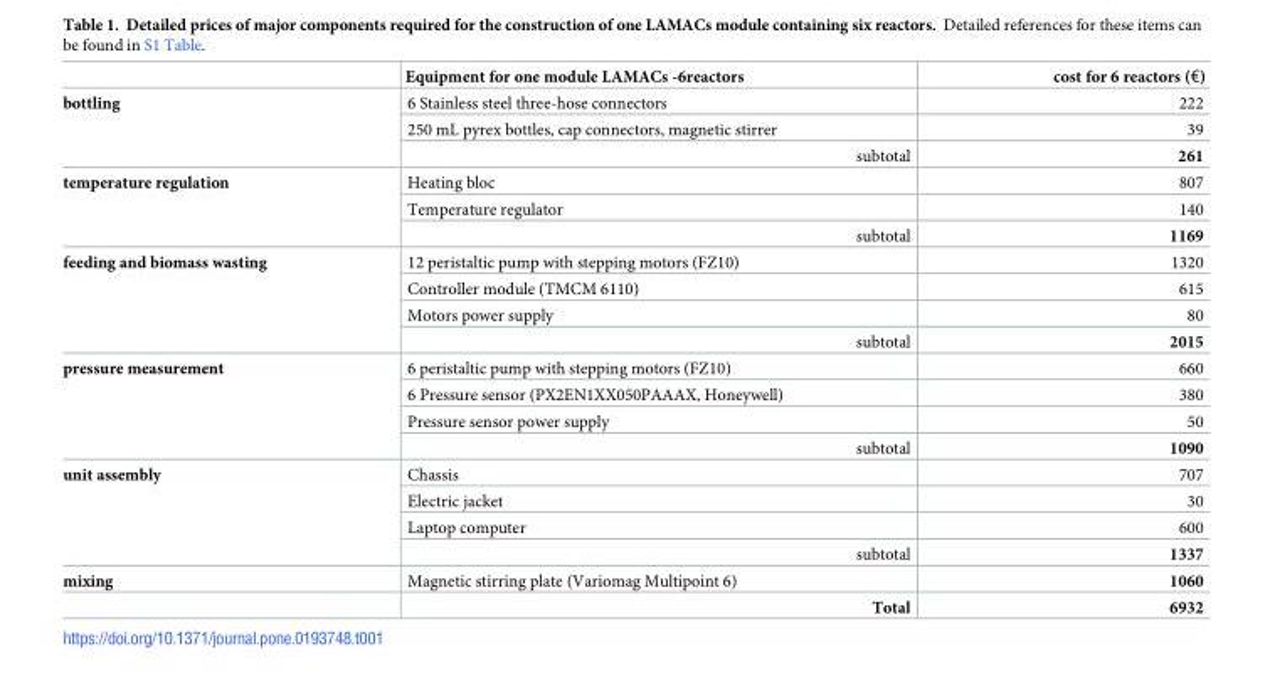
<table><thead><tr><td></td><td>Equipment for one module LAMACs -6reactors</td><td>cost for 6 reactors (€)</td></tr></thead><tbody><tr><td rowspan="3">bottling</td><td>6 Stainless steel three-hose connectors</td><td>222</td></tr><tr><td>250 mL pyrex bottles, cap connectors, magnetic stirrer</td><td>39</td></tr><tr><td>subtotal</td><td>261</td></tr><tr><td rowspan="3">temperature regulation</td><td>Heating bloc</td><td>807</td></tr><tr><td>Temperature regulator</td><td>140</td></tr><tr><td>subtotal</td><td>1169</td></tr><tr><td rowspan="4">feeding and biomass wasting</td><td>12 peristaltic pump with stepping motors (FZ10)</td><td>1320</td></tr><tr><td>Controller module (TMCM 6110)</td><td>615</td></tr><tr><td>Motors power supply</td><td>80</td></tr><tr><td>subtotal</td><td>2015</td></tr><tr><td rowspan="4">pressure measurement</td><td>6 peristaltic pump with stepping motors (FZ10)</td><td>660</td></tr><tr><td>6 Pressure sensor (PX2EN1XX050PAAAX, Honeywell)</td><td>380</td></tr><tr><td>Pressure sensor power supply</td><td>50</td></tr><tr><td>subtotal</td><td>1090</td></tr><tr><td rowspan="4">unit assembly</td><td>Chassis</td><td>707</td></tr><tr><td>Electric jacket</td><td>30</td></tr><tr><td>Laptop computer</td><td>600</td></tr><tr><td>subtotal</td><td>1337</td></tr><tr><td rowspan="2">mixing</td><td>Magnetic stirring plate (Variomag Multipoint 6)</td><td>1060</td></tr><tr><td>Total</td><td>6932</td></tr></tbody></table>